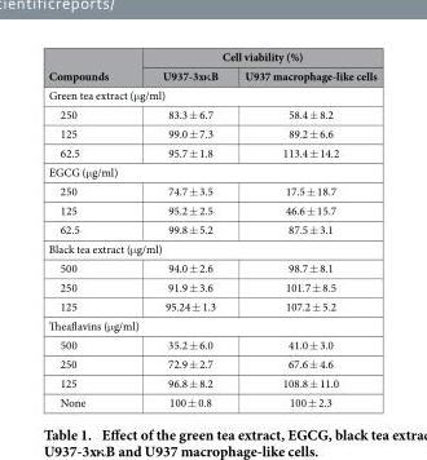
<table><thead><tr><td rowspan="2">Compounds</td><td colspan="2">Cell viability (%)</td></tr><tr><td>U937-3xκB</td><td>U937 macrophage-like cells</td></tr></thead><tbody><tr><td colspan="3">Green tea extract (μ g/ml)</td></tr><tr><td>250</td><td>83.3 ± 6.7</td><td>58.4 ± 8.2</td></tr><tr><td>125</td><td>99.0 ± 7.3</td><td>89.2 ± 6.6</td></tr><tr><td>62.5</td><td>95.7 ± 1.8</td><td>113.4 ± 14.2</td></tr><tr><td colspan="3">EGCG (μ g/ml)</td></tr><tr><td>250</td><td>74.7 ± 3.5</td><td>17.5 ± 18.7</td></tr><tr><td>125</td><td>95.2 ± 2.5</td><td>46.6 ± 15.7</td></tr><tr><td>62.5</td><td>99.8 ± 5.2</td><td>87.5 ± 3.1</td></tr><tr><td colspan="3">Black tea extract (μ g/ml)</td></tr><tr><td>500</td><td>94.0 ± 2.6</td><td>98.7 ± 8.1</td></tr><tr><td>250</td><td>91.9 ± 3.6</td><td>101.7 ± 8.5</td></tr><tr><td>125</td><td>95.24 ± 1.3</td><td>107.2 ± 5.2</td></tr><tr><td colspan="3">Theaflavins (μ g/ml)</td></tr><tr><td>500</td><td>35.2 ± 6.0</td><td>41.0 ± 3.0</td></tr><tr><td>250</td><td>72.9 ± 2.7</td><td>67.6 ± 4.6</td></tr><tr><td>125</td><td>96.8 ± 8.2</td><td>108.8 ± 11.0</td></tr><tr><td>None</td><td>100 ± 0.8</td><td>100 ± 2.3</td></tr></tbody></table>